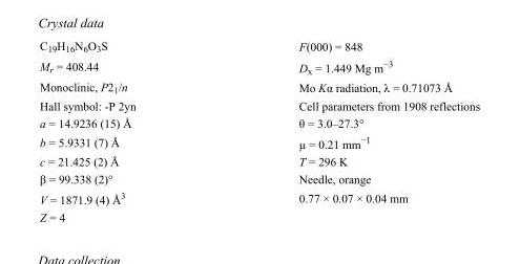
<table><tbody><tr><td>C<sub>19</sub>H<sub>16</sub>N<sub>6</sub>O<sub>3</sub>S</td><td>F(000) = 848</td></tr><tr><td>M<sub>r</sub> = 408.44</td><td>D<sub>x</sub> = 1.449 Mg m<sup>−3</sup></td></tr><tr><td>Monoclinic, P2<sub>1</sub>/n</td><td>Mo Kα radiation, λ = 0.71073 Å</td></tr><tr><td>Hall symbol: -P 2yn</td><td>Cell parameters from 1908 reflections</td></tr><tr><td>a = 14.9236 (15) Å</td><td>θ = 3.0–27.3°</td></tr><tr><td>b = 5.9331 (7) Å</td><td>µ = 0.21 mm<sup>−1</sup></td></tr><tr><td>c = 21.425 (2) Å</td><td>T = 296 K</td></tr><tr><td>β = 99.338 (2)°</td><td>Needle, orange</td></tr><tr><td>V = 1871.9 (4) Å<sup>3</sup></td><td>0.77 × 0.07 × 0.04 mm</td></tr><tr><td>Z = 4</td><td></td></tr></tbody></table>